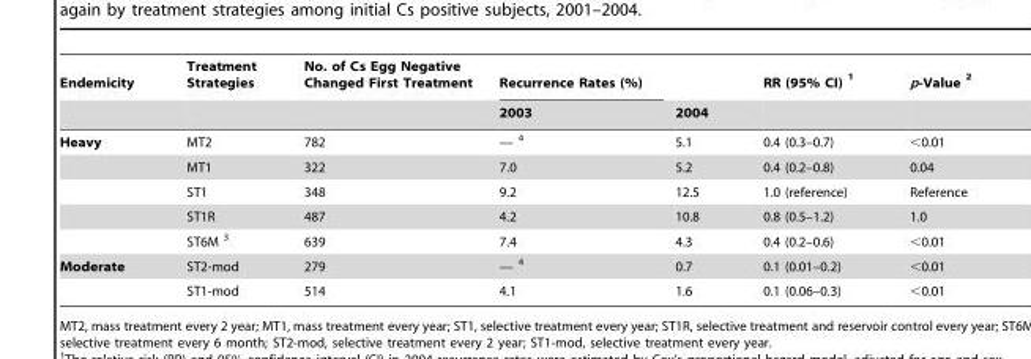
<table><thead><tr><td rowspan="2">Endemicity</td><td rowspan="2">Treatment Strategies</td><td rowspan="2">No. of Cs Egg Negative Changed First Treatment</td><td rowspan="2">Recurrence Rates (%) 2003</td><td rowspan="2">2004</td><td rowspan="2">RR (95% CI) 1</td><td rowspan="2">p-Value 2</td></tr><tr></tr></thead><tbody><tr><td rowspan="5">Heavy</td><td>MT2</td><td>782</td><td>— 4</td><td>5.1</td><td>0.4 (0.3–0.7)</td><td>&lt;0.01</td></tr><tr><td>MT1</td><td>322</td><td>7.0</td><td>5.2</td><td>0.4 (0.2–0.8)</td><td>0.04</td></tr><tr><td>ST1</td><td>348</td><td>9.2</td><td>12.5</td><td>1.0 (reference)</td><td>Reference</td></tr><tr><td>ST1R</td><td>487</td><td>4.2</td><td>10.8</td><td>0.8 (0.5–1.2)</td><td>1.0</td></tr><tr><td>ST6M 3</td><td>639</td><td>7.4</td><td>4.3</td><td>0.4 (0.2–0.6)</td><td>&lt;0.01</td></tr><tr><td rowspan="2">Moderate</td><td>ST2-mod</td><td>279</td><td>— 4</td><td>0.7</td><td>0.1 (0.01–0.2)</td><td>&lt;0.01</td></tr><tr><td>ST1-mod</td><td>514</td><td>4.1</td><td>1.6</td><td>0.1 (0.06–0.3)</td><td>&lt;0.01</td></tr></tbody></table>